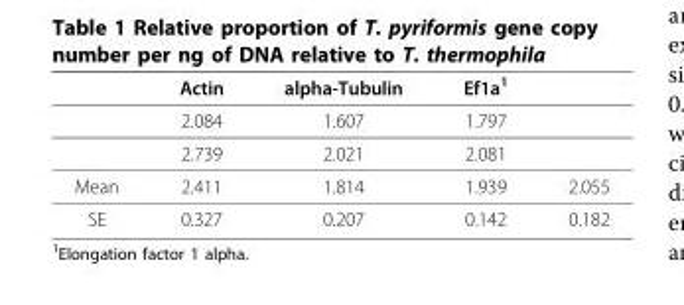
<table><thead><tr><td></td><td>Actin</td><td>alpha-Tubulin</td><td>Ef1a<sup>1</sup></td><td></td></tr></thead><tbody><tr><td></td><td>2.084</td><td>1.607</td><td>1.797</td><td></td></tr><tr><td></td><td>2.739</td><td>2.021</td><td>2.081</td><td></td></tr><tr><td>Mean</td><td>2.411</td><td>1.814</td><td>1.939</td><td>2.055</td></tr><tr><td>SE</td><td>0.327</td><td>0.207</td><td>0.142</td><td>0.182</td></tr></tbody></table>